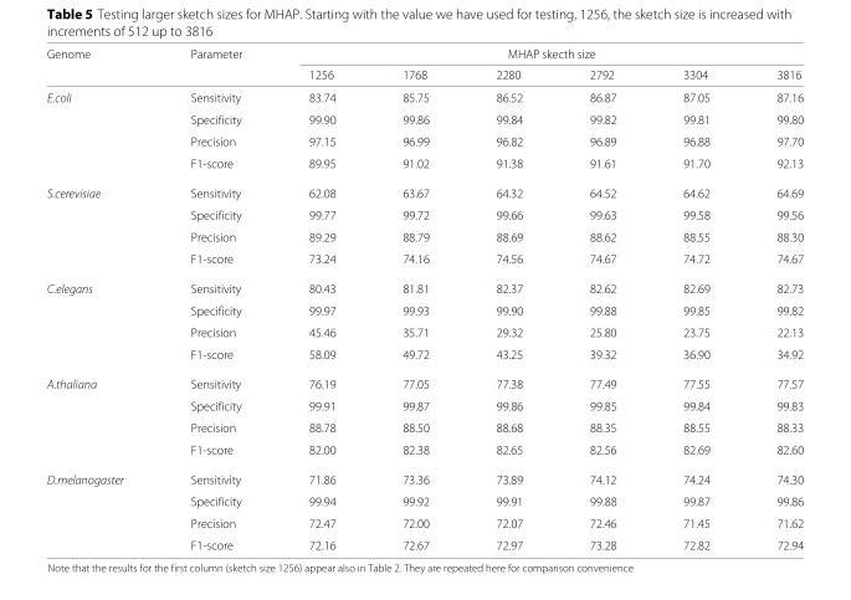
<table><thead><tr><td rowspan="2">Genome</td><td rowspan="2">Parameter</td><td colspan="6">MHAP skecth size</td></tr><tr><td>1256</td><td>1768</td><td>2280</td><td>2792</td><td>3304</td><td>3816</td></tr></thead><tbody><tr><td rowspan="4">E.coli</td><td>Sensitivity</td><td>83.74</td><td>85.75</td><td>86.52</td><td>86.87</td><td>87.05</td><td>87.16</td></tr><tr><td>Specificity</td><td>99.90</td><td>99.86</td><td>99.84</td><td>99.82</td><td>99.81</td><td>99.80</td></tr><tr><td>Precision</td><td>97.15</td><td>96.99</td><td>96.82</td><td>96.89</td><td>96.88</td><td>97.70</td></tr><tr><td>F1-score</td><td>89.95</td><td>91.02</td><td>91.38</td><td>91.61</td><td>91.70</td><td>92.13</td></tr><tr><td rowspan="4">S.cerevisiae</td><td>Sensitivity</td><td>62.08</td><td>63.67</td><td>64.32</td><td>64.52</td><td>64.62</td><td>64.69</td></tr><tr><td>Specificity</td><td>99.77</td><td>99.72</td><td>99.66</td><td>99.63</td><td>99.58</td><td>99.56</td></tr><tr><td>Precision</td><td>89.29</td><td>88.79</td><td>88.69</td><td>88.62</td><td>88.55</td><td>88.30</td></tr><tr><td>F1-score</td><td>73.24</td><td>74.16</td><td>74.56</td><td>74.67</td><td>74.72</td><td>74.67</td></tr><tr><td rowspan="4">C.elegans</td><td>Sensitivity</td><td>80.43</td><td>81.81</td><td>82.37</td><td>82.62</td><td>82.69</td><td>82.73</td></tr><tr><td>Specificity</td><td>99.97</td><td>99.93</td><td>99.90</td><td>99.88</td><td>99.85</td><td>99.82</td></tr><tr><td>Precision</td><td>45.46</td><td>35.71</td><td>29.32</td><td>25.80</td><td>23.75</td><td>22.13</td></tr><tr><td>F1-score</td><td>58.09</td><td>49.72</td><td>43.25</td><td>39.32</td><td>36.90</td><td>34.92</td></tr><tr><td rowspan="4">A.thaliana</td><td>Sensitivity</td><td>76.19</td><td>77.05</td><td>77.38</td><td>77.49</td><td>77.55</td><td>77.57</td></tr><tr><td>Specificity</td><td>99.91</td><td>99.87</td><td>99.86</td><td>99.85</td><td>99.84</td><td>99.83</td></tr><tr><td>Precision</td><td>88.78</td><td>88.50</td><td>88.68</td><td>88.35</td><td>88.55</td><td>88.33</td></tr><tr><td>F1-score</td><td>82.00</td><td>82.38</td><td>82.65</td><td>82.56</td><td>82.69</td><td>82.60</td></tr><tr><td rowspan="4">D.melanogaster</td><td>Sensitivity</td><td>71.86</td><td>73.36</td><td>73.89</td><td>74.12</td><td>74.24</td><td>74.30</td></tr><tr><td>Specificity</td><td>99.94</td><td>99.92</td><td>99.91</td><td>99.88</td><td>99.87</td><td>99.86</td></tr><tr><td>Precision</td><td>72.47</td><td>72.00</td><td>72.07</td><td>72.46</td><td>71.45</td><td>71.62</td></tr><tr><td>F1-score</td><td>72.16</td><td>72.67</td><td>72.97</td><td>73.28</td><td>72.82</td><td>72.94</td></tr></tbody></table>